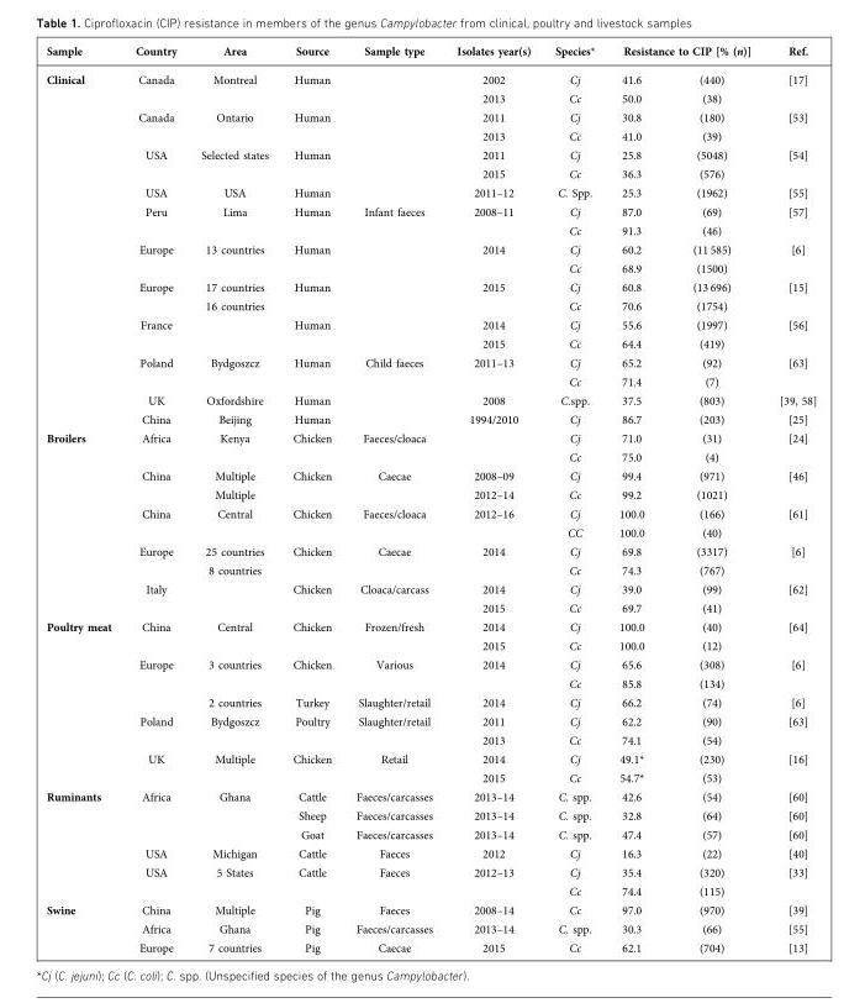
<table><thead><tr><td rowspan="2">Sample Clinical</td><td rowspan="2">Country Canada</td><td rowspan="2">Area Montreal</td><td rowspan="2">Source Human</td><td rowspan="2">Sample type</td><td rowspan="2">Isolates year(s) 2002</td><td rowspan="2">Species* Cj</td><td colspan="2">Resistance to CIP [% (n)]</td><td rowspan="2">Ref. [17]</td></tr><tr><td>41.6</td><td>(440)</td></tr></thead><tbody><tr><td></td><td></td><td></td><td></td><td></td><td>2013</td><td>Cc</td><td>50.0</td><td>(38)</td><td></td></tr><tr><td></td><td>Canada</td><td>Ontario</td><td>Human</td><td></td><td>2011</td><td>Cj</td><td>30.8</td><td>(180)</td><td>[53]</td></tr><tr><td></td><td></td><td></td><td></td><td></td><td>2013</td><td>Cc</td><td>41.0</td><td>(39)</td><td></td></tr><tr><td></td><td>USA</td><td>Selected states</td><td>Human</td><td></td><td>2011</td><td>Cj</td><td>25.8</td><td>(5048)</td><td>[54]</td></tr><tr><td></td><td></td><td></td><td></td><td></td><td>2015</td><td>Cc</td><td>36.3</td><td>(576)</td><td></td></tr><tr><td></td><td>USA</td><td>USA</td><td>Human</td><td></td><td>2011–12</td><td>C. Spp.</td><td>25.3</td><td>(1962)</td><td>[55]</td></tr><tr><td></td><td>Peru</td><td>Lima</td><td>Human</td><td>Infant faeces</td><td>2008–11</td><td>Cj</td><td>87.0</td><td>(69)</td><td>[57]</td></tr><tr><td></td><td></td><td></td><td></td><td></td><td></td><td>Cc</td><td>91.3</td><td>(46)</td><td></td></tr><tr><td></td><td>Europe</td><td>13 countries</td><td>Human</td><td></td><td>2014</td><td>Cj</td><td>60.2</td><td>(11 585)</td><td>[6]</td></tr><tr><td></td><td></td><td></td><td></td><td></td><td></td><td>Cc</td><td>68.9</td><td>(1500)</td><td></td></tr><tr><td></td><td>Europe</td><td>17 countries</td><td>Human</td><td></td><td>2015</td><td>Cj</td><td>60.8</td><td>(13 696)</td><td>[15]</td></tr><tr><td></td><td></td><td>16 countries</td><td></td><td></td><td></td><td>Cc</td><td>70.6</td><td>(1754)</td><td></td></tr><tr><td></td><td>France</td><td></td><td>Human</td><td></td><td>2014</td><td>Cj</td><td>55.6</td><td>(1997)</td><td>[56]</td></tr><tr><td></td><td></td><td></td><td></td><td></td><td>2015</td><td>Cc</td><td>64.4</td><td>(419)</td><td></td></tr><tr><td></td><td>Poland</td><td>Bydgoszcz</td><td>Human</td><td>Child faeces</td><td>2011–13</td><td>Cj</td><td>65.2</td><td>(92)</td><td>[63]</td></tr><tr><td></td><td></td><td></td><td></td><td></td><td></td><td>Cc</td><td>71.4</td><td>(7)</td><td></td></tr><tr><td></td><td>UK</td><td>Oxfordshire</td><td>Human</td><td></td><td>2008</td><td>C.spp.</td><td>37.5</td><td>(803)</td><td>[39, 58]</td></tr><tr><td></td><td>China</td><td>Beijing</td><td>Human</td><td></td><td>1994/2010</td><td>Cj</td><td>86.7</td><td>(203)</td><td>[25]</td></tr><tr><td rowspan="10">Broilers</td><td>Africa</td><td>Kenya</td><td>Chicken</td><td>Faeces/cloaca</td><td></td><td>Cj</td><td>71.0</td><td>(31)</td><td>[24]</td></tr><tr><td></td><td></td><td></td><td></td><td></td><td>Cc</td><td>75.0</td><td>(4)</td><td></td></tr><tr><td>China</td><td>Multiple</td><td>Chicken</td><td>Caecae</td><td>2008–09</td><td>Cj</td><td>99.4</td><td>(971)</td><td>[46]</td></tr><tr><td></td><td>Multiple</td><td></td><td></td><td>2012–14</td><td>Cc</td><td>99.2</td><td>(1021)</td><td></td></tr><tr><td>China</td><td>Central</td><td>Chicken</td><td>Faeces/cloaca</td><td>2012–16</td><td>Cj</td><td>100.0</td><td>(166)</td><td>[61]</td></tr><tr><td></td><td></td><td></td><td></td><td></td><td>CC</td><td>100.0</td><td>(40)</td><td></td></tr><tr><td>Europe</td><td>25 countries</td><td>Chicken</td><td>Caecae</td><td>2014</td><td>Cj</td><td>69.8</td><td>(3317)</td><td>[6]</td></tr><tr><td></td><td>8 countries</td><td></td><td></td><td></td><td>Cc</td><td>74.3</td><td>(767)</td><td></td></tr><tr><td>Italy</td><td></td><td>Chicken</td><td>Cloaca/carcass</td><td>2014</td><td>Cj</td><td>39.0</td><td>(99)</td><td>[62]</td></tr><tr><td></td><td></td><td></td><td></td><td>2015</td><td>Cc</td><td>69.7</td><td>(41)</td><td></td></tr><tr><td rowspan="9">Poultry meat</td><td>China</td><td>Central</td><td>Chicken</td><td>Frozen/fresh</td><td>2014</td><td>Cj</td><td>100.0</td><td>(40)</td><td>[64]</td></tr><tr><td></td><td></td><td></td><td></td><td>2015</td><td>Cc</td><td>100.0</td><td>(12)</td><td></td></tr><tr><td>Europe</td><td>3 countries</td><td>Chicken</td><td>Various</td><td>2014</td><td>Cj</td><td>65.6</td><td>(308)</td><td>[6]</td></tr><tr><td></td><td></td><td></td><td></td><td></td><td>Cc</td><td>85.8</td><td>(134)</td><td></td></tr><tr><td></td><td>2 countries</td><td>Turkey</td><td>Slaughter/retail</td><td>2014</td><td>Cj</td><td>66.2</td><td>(74)</td><td>[6]</td></tr><tr><td>Poland</td><td>Bydgoszcz</td><td>Poultry</td><td>Slaughter/retail</td><td>2011</td><td>Cj</td><td>62.2</td><td>(90)</td><td>[63]</td></tr><tr><td></td><td></td><td></td><td></td><td>2013</td><td>Cc</td><td>74.1</td><td>(54)</td><td></td></tr><tr><td>UK</td><td>Multiple</td><td>Chicken</td><td>Retail</td><td>2014</td><td>Cj</td><td>49.1*</td><td>(230)</td><td>[16]</td></tr><tr><td></td><td></td><td></td><td></td><td>2015</td><td>Cc</td><td>54.7*</td><td>(53)</td><td></td></tr><tr><td rowspan="6">Ruminants</td><td>Africa</td><td>Ghana</td><td>Cattle</td><td>Faeces/carcasses</td><td>2013–14</td><td>C. spp.</td><td>42.6</td><td>(54)</td><td>[60]</td></tr><tr><td></td><td></td><td>Sheep</td><td>Faeces/carcasses</td><td>2013–14</td><td>C. spp.</td><td>32.8</td><td>(64)</td><td>[60]</td></tr><tr><td></td><td></td><td>Goat</td><td>Faeces/carcasses</td><td>2013–14</td><td>C. spp.</td><td>47.4</td><td>(57)</td><td>[60]</td></tr><tr><td>USA</td><td>Michigan</td><td>Cattle</td><td>Faeces</td><td>2012</td><td>Cj</td><td>16.3</td><td>(22)</td><td>[40]</td></tr><tr><td>USA</td><td>5 States</td><td>Cattle</td><td>Faeces</td><td>2012–13</td><td>Cj</td><td>35.4</td><td>(320)</td><td>[33]</td></tr><tr><td></td><td></td><td></td><td></td><td></td><td>Cc</td><td>74.4</td><td>(115)</td><td></td></tr><tr><td rowspan="3">Swine</td><td>China</td><td>Multiple</td><td>Pig</td><td>Faeces</td><td>2008–14</td><td>Cc</td><td>97.0</td><td>(970)</td><td>[39]</td></tr><tr><td>Africa</td><td>Ghana</td><td>Pig</td><td>Faeces/carcasses</td><td>2013–14</td><td>C. spp.</td><td>30.3</td><td>(66)</td><td>[55]</td></tr><tr><td>Europe</td><td>7 countries</td><td>Pig</td><td>Caecae</td><td>2015</td><td>Cc</td><td>62.1</td><td>(704)</td><td>[13]</td></tr></tbody></table>